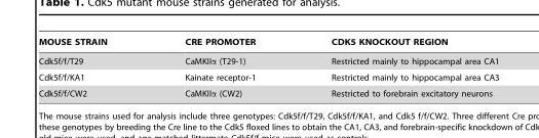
<table><thead><tr><td>MOUSE STRAIN</td><td>CRE PROMOTER</td><td>CDK5 KNOCKOUT REGION</td></tr></thead><tbody><tr><td>Cdk5f/f/T29</td><td>CaMKIIα (T29-1)</td><td>Restricted mainly to hippocampal area CA1</td></tr><tr><td>Cdk5f/f/KA1</td><td>Kainate receptor-1</td><td>Restricted mainly to hippocampal area CA3</td></tr><tr><td>Cdk5f/f/CW2</td><td>CaMKIIα (CW2)</td><td>Restricted to forebrain excitatory neurons</td></tr></tbody></table>